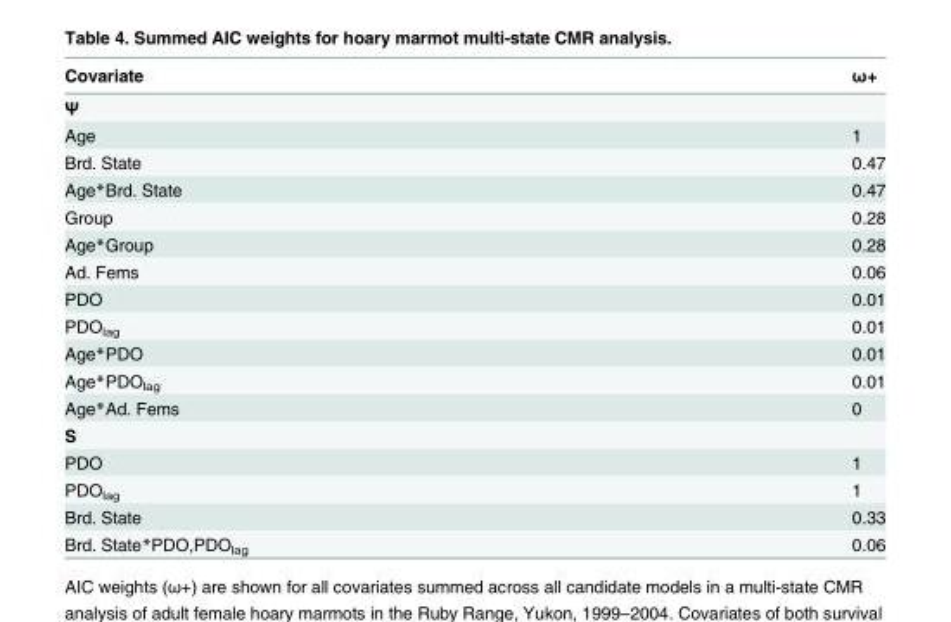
<table><thead><tr><td>Covariate</td><td>ω+</td></tr></thead><tbody><tr><td colspan="2">Ψ</td></tr><tr><td>Age</td><td>1</td></tr><tr><td>Brd. State</td><td>0.47</td></tr><tr><td>Age*Brd. State</td><td>0.47</td></tr><tr><td>Group</td><td>0.28</td></tr><tr><td>Age*Group</td><td>0.28</td></tr><tr><td>Ad. Fems</td><td>0.06</td></tr><tr><td>PDO</td><td>0.01</td></tr><tr><td>PDO<sub>lag</sub></td><td>0.01</td></tr><tr><td>Age*PDO</td><td>0.01</td></tr><tr><td>Age*PDO<sub>lag</sub></td><td>0.01</td></tr><tr><td>Age*Ad. Fems</td><td>0</td></tr><tr><td colspan="2">S</td></tr><tr><td>PDO</td><td>1</td></tr><tr><td>PDO<sub>lag</sub></td><td>1</td></tr><tr><td>Brd. State</td><td>0.33</td></tr><tr><td>Brd. State*PDO,PDO<sub>lag</sub></td><td>0.06</td></tr></tbody></table>